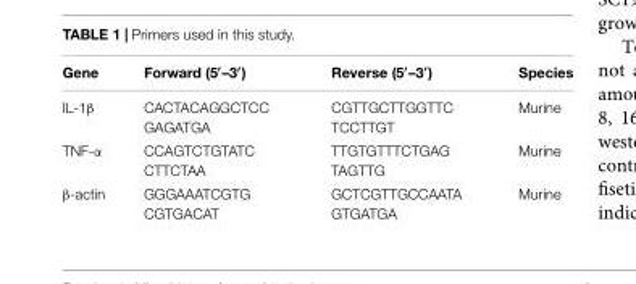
<table><thead><tr><td>Gene</td><td>Forward (5′–3′)</td><td>Reverse (5′–3′)</td><td>Species</td></tr></thead><tbody><tr><td>IL-1β</td><td>CACTACAGGCTCC GAGATGA</td><td>CGTTGCTTGGTTC TCCTTGT</td><td>Murine</td></tr><tr><td>TNF-α</td><td>CCAGTCTGTATC CTTCTAA</td><td>TTGTGTTTCTGAG TAGTTG</td><td>Murine</td></tr><tr><td>β-actin</td><td>GGGAAATCGTG CGTGACAT</td><td>GCTCGTTGCCAATA GTGATGA</td><td>Murine</td></tr></tbody></table>